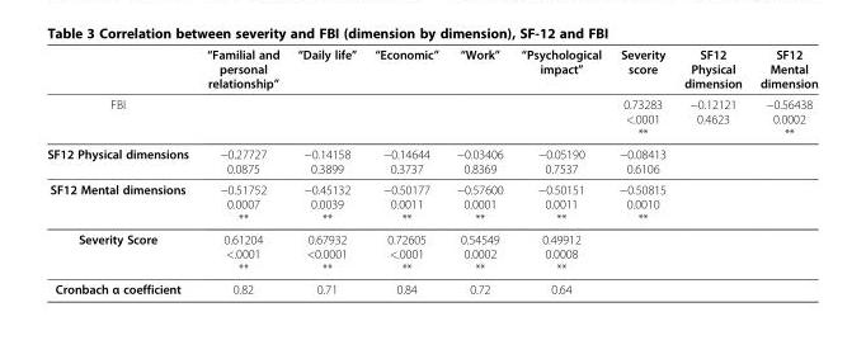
<table><thead><tr><td></td><td>“Familial and personal relationship”</td><td>“Daily life”</td><td>“Economic”</td><td>“Work”</td><td>“Psychological impact”</td><td>Severity score</td><td>SF12 Physical dimension</td><td>SF12 Mental dimension</td></tr></thead><tbody><tr><td rowspan="3">FBI</td><td></td><td></td><td></td><td></td><td></td><td>0.73283</td><td>−0.12121</td><td>−0.56438</td></tr><tr><td></td><td></td><td></td><td></td><td></td><td>&lt;.0001</td><td>0.4623</td><td>0.0002</td></tr><tr><td></td><td></td><td></td><td></td><td></td><td>**</td><td></td><td>**</td></tr><tr><td rowspan="2">SF12 Physical dimensions</td><td>−0.27727</td><td>−0.14158</td><td>−0.14644</td><td>−0.03406</td><td>−0.05190</td><td>−0.08413</td><td></td><td></td></tr><tr><td>0.0875</td><td>0.3899</td><td>0.3737</td><td>0.8369</td><td>0.7537</td><td>0.6106</td><td></td><td></td></tr><tr><td rowspan="3">SF12 Mental dimensions</td><td>−0.51752</td><td>−0.45132</td><td>−0.50177</td><td>−0.57600</td><td>−0.50151</td><td>−0.50815</td><td></td><td></td></tr><tr><td>0.0007</td><td>0.0039</td><td>0.0011</td><td>0.0001</td><td>0.0011</td><td>0.0010</td><td></td><td></td></tr><tr><td>**</td><td>**</td><td>**</td><td>**</td><td>**</td><td>**</td><td></td><td></td></tr><tr><td rowspan="3">Severity Score</td><td>0.61204</td><td>0.67932</td><td>0.72605</td><td>0.54549</td><td>0.49912</td><td></td><td></td><td></td></tr><tr><td>&lt;.0001</td><td>&lt;0.0001</td><td>&lt;.0001</td><td>0.0002</td><td>0.0008</td><td></td><td></td><td></td></tr><tr><td>**</td><td>**</td><td>**</td><td>**</td><td>**</td><td></td><td></td><td></td></tr><tr><td>Cronbach α coefficient</td><td>0.82</td><td>0.71</td><td>0.84</td><td>0.72</td><td>0.64</td><td></td><td></td><td></td></tr></tbody></table>